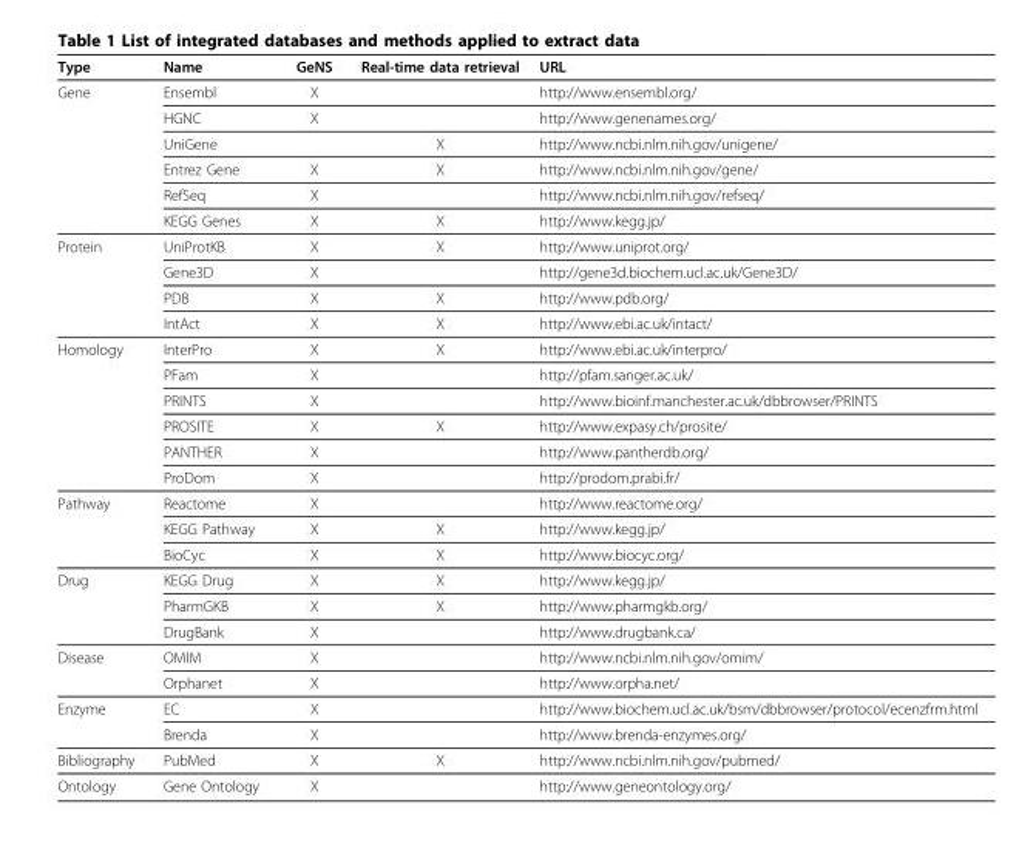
<table><thead><tr><td>Type</td><td>Name</td><td>GeNS</td><td>Real-time data retrieval</td><td>URL</td></tr></thead><tbody><tr><td rowspan="6">Gene</td><td>Ensembl</td><td>X</td><td></td><td>http://www.ensembl.org/</td></tr><tr><td>HGNC</td><td>X</td><td></td><td>http://www.genenames.org/</td></tr><tr><td>UniGene</td><td></td><td>X</td><td>http://www.ncbi.nlm.nih.gov/unigene/</td></tr><tr><td>Entrez Gene</td><td>X</td><td>X</td><td>http://www.ncbi.nlm.nih.gov/gene/</td></tr><tr><td>RefSeq</td><td>X</td><td></td><td>http://www.ncbi.nlm.nih.gov/refseq/</td></tr><tr><td>KEGG Genes</td><td>X</td><td>X</td><td>http://www.kegg.jp/</td></tr><tr><td rowspan="4">Protein</td><td>UniProtKB</td><td>X</td><td>X</td><td>http://www.uniprot.org/</td></tr><tr><td>Gene3D</td><td>X</td><td></td><td>http://gene3d.biochem.ucl.ac.uk/Gene3D/</td></tr><tr><td>PDB</td><td>X</td><td>X</td><td>http://www.pdb.org/</td></tr><tr><td>IntAct</td><td>X</td><td>X</td><td>http://www.ebi.ac.uk/intact/</td></tr><tr><td rowspan="6">Homology</td><td>InterPro</td><td>X</td><td>X</td><td>http://www.ebi.ac.uk/interpro/</td></tr><tr><td>PFam</td><td>X</td><td></td><td>http://pfam.sanger.ac.uk/</td></tr><tr><td>PRINTS</td><td>X</td><td></td><td>http://www.bioinf.manchester.ac.uk/dbbrowser/PRINTS</td></tr><tr><td>PROSITE</td><td>X</td><td>X</td><td>http://www.expasy.ch/prosite/</td></tr><tr><td>PANTHER</td><td>X</td><td></td><td>http://www.pantherdb.org/</td></tr><tr><td>ProDom</td><td>X</td><td></td><td>http://prodom.prabi.fr/</td></tr><tr><td rowspan="3">Pathway</td><td>Reactome</td><td>X</td><td></td><td>http://www.reactome.org/</td></tr><tr><td>KEGG Pathway</td><td>X</td><td>X</td><td>http://www.kegg.jp/</td></tr><tr><td>BioCyc</td><td>X</td><td>X</td><td>http://www.biocyc.org/</td></tr><tr><td rowspan="3">Drug</td><td>KEGG Drug</td><td>X</td><td>X</td><td>http://www.kegg.jp/</td></tr><tr><td>PharmGKB</td><td>X</td><td>X</td><td>http://www.pharmgkb.org/</td></tr><tr><td>DrugBank</td><td>X</td><td></td><td>http://www.drugbank.ca/</td></tr><tr><td rowspan="2">Disease</td><td>OMIM</td><td>X</td><td></td><td>http://www.ncbi.nlm.nih.gov/omim/</td></tr><tr><td>Orphanet</td><td>X</td><td></td><td>http://www.orpha.net/</td></tr><tr><td rowspan="2">Enzyme</td><td>EC</td><td>X</td><td></td><td>http://www.biochem.ucl.ac.uk/bsm/dbbrowser/protocol/ecenzfrm.html</td></tr><tr><td>Brenda</td><td>X</td><td></td><td>http://www.brenda-enzymes.org/</td></tr><tr><td>Bibliography</td><td>PubMed</td><td>X</td><td>X</td><td>http://www.ncbi.nlm.nih.gov/pubmed/</td></tr><tr><td>Ontology</td><td>Gene Ontology</td><td>X</td><td></td><td>http://www.geneontology.org/</td></tr></tbody></table>